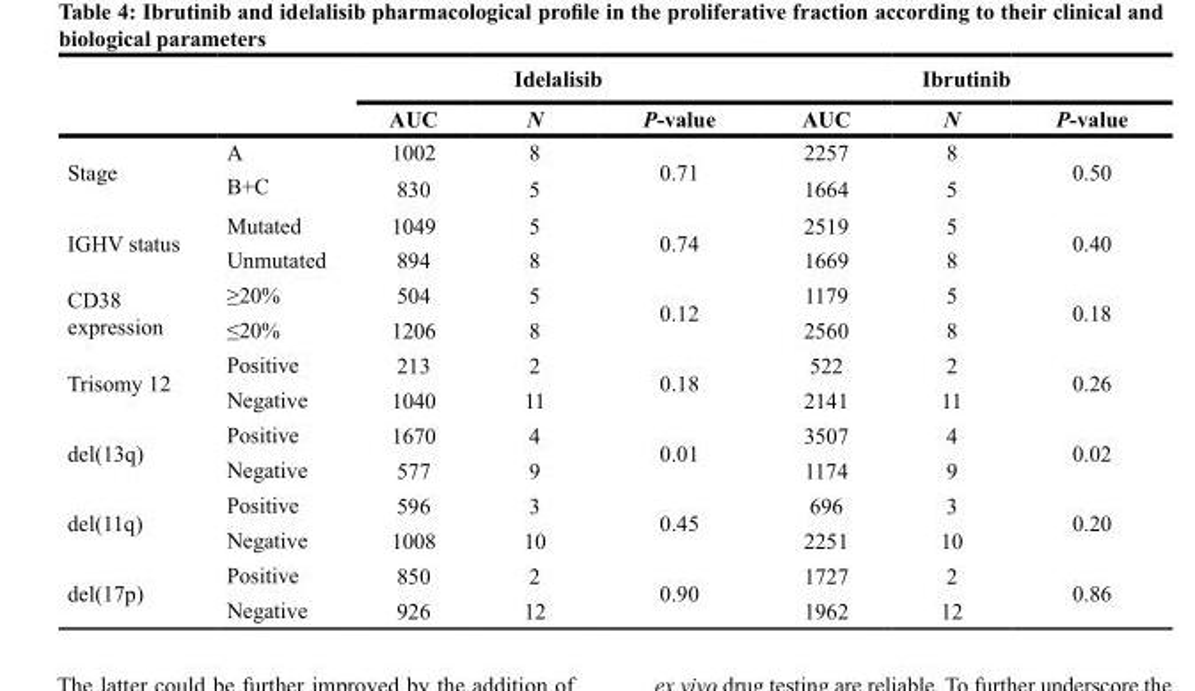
<table><thead><tr><td rowspan="2"></td><td rowspan="2"></td><td colspan="3">Idelalisib</td><td colspan="3">Ibrutinib</td></tr><tr><td>AUC</td><td>N</td><td>P-value</td><td>AUC</td><td>N</td><td>P-value</td></tr></thead><tbody><tr><td rowspan="2">Stage</td><td>A</td><td>1002</td><td>8</td><td rowspan="2">0.71</td><td>2257</td><td>8</td><td rowspan="2">0.50</td></tr><tr><td>B+C</td><td>830</td><td>5</td><td>1664</td><td>5</td></tr><tr><td rowspan="2">IGHV status</td><td>Mutated</td><td>1049</td><td>5</td><td rowspan="2">0.74</td><td>2519</td><td>5</td><td rowspan="2">0.40</td></tr><tr><td>Unmutated</td><td>894</td><td>8</td><td>1669</td><td>8</td></tr><tr><td rowspan="2">CD38 expression</td><td>≥20%</td><td>504</td><td>5</td><td rowspan="2">0.12</td><td>1179</td><td>5</td><td rowspan="2">0.18</td></tr><tr><td>≤20%</td><td>1206</td><td>8</td><td>2560</td><td>8</td></tr><tr><td rowspan="2">Trisomy 12</td><td>Positive</td><td>213</td><td>2</td><td rowspan="2">0.18</td><td>522</td><td>2</td><td rowspan="2">0.26</td></tr><tr><td>Negative</td><td>1040</td><td>11</td><td>2141</td><td>11</td></tr><tr><td rowspan="2">del(13q)</td><td>Positive</td><td>1670</td><td>4</td><td rowspan="2">0.01</td><td>3507</td><td>4</td><td rowspan="2">0.02</td></tr><tr><td>Negative</td><td>577</td><td>9</td><td>1174</td><td>9</td></tr><tr><td rowspan="2">del(11q)</td><td>Positive</td><td>596</td><td>3</td><td rowspan="2">0.45</td><td>696</td><td>3</td><td rowspan="2">0.20</td></tr><tr><td>Negative</td><td>1008</td><td>10</td><td>2251</td><td>10</td></tr><tr><td rowspan="2">del(17p)</td><td>Positive</td><td>850</td><td>2</td><td rowspan="2">0.90</td><td>1727</td><td>2</td><td rowspan="2">0.86</td></tr><tr><td>Negative</td><td>926</td><td>12</td><td>1962</td><td>12</td></tr></tbody></table>